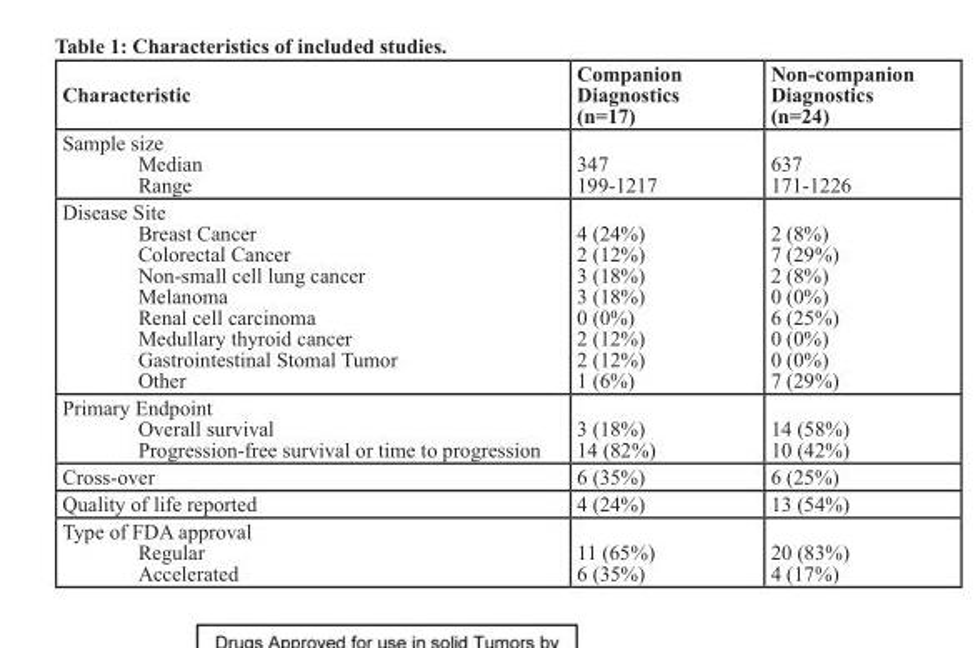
<table><thead><tr><td>Characteristic</td><td>Companion Diagnostics (n=17)</td><td>Non-companion Diagnostics (n=24)</td></tr></thead><tbody><tr><td>Sample size Median Range</td><td>347 199-1217</td><td>637 171-1226</td></tr><tr><td>Disease Site Breast Cancer Colorectal Cancer Non-small cell lung cancer Melanoma Renal cell carcinoma Medullary thyroid cancer Gastrointestinal Stomal Tumor Other</td><td>4 (24%) 2 (12%) 3 (18%) 3 (18%) 0 (0%) 2 (12%) 2 (12%) 1 (6%)</td><td>2 (8%) 7 (29%) 2 (8%) 0 (0%) 6 (25%) 0 (0%) 0 (0%) 7 (29%)</td></tr><tr><td>Primary Endpoint Overall survival Progression-free survival or time to progression</td><td>3 (18%) 14 (82%)</td><td>14 (58%) 10 (42%)</td></tr><tr><td>Cross-over</td><td>6 (35%)</td><td>6 (25%)</td></tr><tr><td>Quality of life reported</td><td>4 (24%)</td><td>13 (54%)</td></tr><tr><td>Type of FDA approval Regular Accelerated</td><td>11 (65%) 6 (35%)</td><td>20 (83%) 4 (17%)</td></tr></tbody></table>